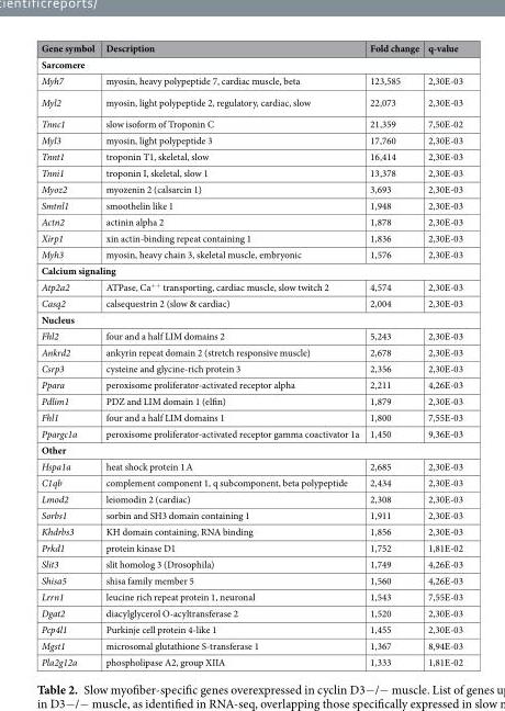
<table><thead><tr><td>Gene symbol</td><td>Description</td><td>Fold change</td><td>q-value</td></tr></thead><tbody><tr><td colspan="4">Sarcomere</td></tr><tr><td>Myh7</td><td>myosin, heavy polypeptide 7, cardiac muscle, beta</td><td>123,585</td><td>2,30E-03</td></tr><tr><td>Myl2</td><td>myosin, light polypeptide 2, regulatory, cardiac, slow</td><td>22,073</td><td>2,30E-03</td></tr><tr><td>Tnnc1</td><td>slow isoform of Troponin C</td><td>21,359</td><td>7,50E-02</td></tr><tr><td>Myl3</td><td>myosin, light polypeptide 3</td><td>17,760</td><td>2,30E-03</td></tr><tr><td>Tnnt1</td><td>troponin T1, skeletal, slow</td><td>16,414</td><td>2,30E-03</td></tr><tr><td>Tnni1</td><td>troponin I, skeletal, slow 1</td><td>13,378</td><td>2,30E-03</td></tr><tr><td>Myoz2</td><td>myozenin 2 (calsarcin 1)</td><td>3,693</td><td>2,30E-03</td></tr><tr><td>Smtnl1</td><td>smoothelin like 1</td><td>1,948</td><td>2,30E-03</td></tr><tr><td>Actn2</td><td>actinin alpha 2</td><td>1,878</td><td>2,30E-03</td></tr><tr><td>Xirp1</td><td>xin actin-binding repeat containing 1</td><td>1,836</td><td>2,30E-03</td></tr><tr><td>Myh3</td><td>myosin, heavy chain 3, skeletal muscle, embryonic</td><td>1,576</td><td>2,30E-03</td></tr><tr><td colspan="4">Calcium signaling</td></tr><tr><td>Atp2a2</td><td>ATPase, Ca<sup>++</sup> transporting, cardiac muscle, slow twitch 2</td><td>4,574</td><td>2,30E-03</td></tr><tr><td>Casq2</td><td>calsequestrin 2 (slow &amp; cardiac)</td><td>2,004</td><td>2,30E-03</td></tr><tr><td colspan="4">Nucleus</td></tr><tr><td>Fhl2</td><td>four and a half LIM domains 2</td><td>5,243</td><td>2,30E-03</td></tr><tr><td>Ankrd2</td><td>ankyrin repeat domain 2 (stretch responsive muscle)</td><td>2,678</td><td>2,30E-03</td></tr><tr><td>Csrp3</td><td>cysteine and glycine-rich protein 3</td><td>2,356</td><td>2,30E-03</td></tr><tr><td>Ppara</td><td>peroxisome proliferator-activated receptor alpha</td><td>2,211</td><td>4,26E-03</td></tr><tr><td>Pdlim1</td><td>PDZ and LIM domain 1 (elfin)</td><td>1,879</td><td>2,30E-03</td></tr><tr><td>Fhl1</td><td>four and a half LIM domains 1</td><td>1,800</td><td>7,55E-03</td></tr><tr><td>Ppargc1a</td><td>peroxisome proliferator-activated receptor gamma coactivator 1a</td><td>1,450</td><td>9,36E-03</td></tr><tr><td colspan="4">Other</td></tr><tr><td>Hspa1a</td><td>heat shock protein 1 A</td><td>2,685</td><td>2,30E-03</td></tr><tr><td>C1qb</td><td>complement component 1, q subcomponent, beta polypeptide</td><td>2,434</td><td>2,30E-03</td></tr><tr><td>Lmod2</td><td>leiomodin 2 (cardiac)</td><td>2,308</td><td>2,30E-03</td></tr><tr><td>Sorbs1</td><td>sorbin and SH3 domain containing 1</td><td>1,911</td><td>2,30E-03</td></tr><tr><td>Khdrbs3</td><td>KH domain containing, RNA binding</td><td>1,856</td><td>2,30E-03</td></tr><tr><td>Prkd1</td><td>protein kinase D1</td><td>1,752</td><td>1,81E-02</td></tr><tr><td>Slit3</td><td>slit homolog 3 (Drosophila)</td><td>1,749</td><td>4,26E-03</td></tr><tr><td>Shisa5</td><td>shisa family member 5</td><td>1,560</td><td>4,26E-03</td></tr><tr><td>Lrrn1</td><td>leucine rich repeat protein 1, neuronal</td><td>1,543</td><td>7,55E-03</td></tr><tr><td>Dgat2</td><td>diacylglycerol O-acyltransferase 2</td><td>1,520</td><td>2,30E-03</td></tr><tr><td>Pcp4l1</td><td>Purkinje cell protein 4-like 1</td><td>1,455</td><td>2,30E-03</td></tr><tr><td>Mgst1</td><td>microsomal glutathione S-transferase 1</td><td>1,367</td><td>8,94E-03</td></tr><tr><td>Pla2g12a</td><td>phospholipase A2, group XIIA</td><td>1,333</td><td>1,81E-02</td></tr></tbody></table>